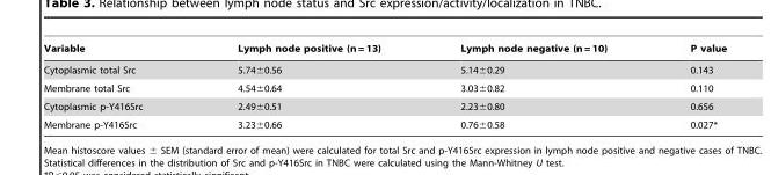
<table><thead><tr><td>Variable</td><td>Lymph node positive (n = 13)</td><td>Lymph node negative (n = 10)</td><td>P value</td></tr></thead><tbody><tr><td>Cytoplasmic total Src</td><td>5.74±0.56</td><td>5.14±0.29</td><td>0.143</td></tr><tr><td>Membrane total Src</td><td>4.54±0.64</td><td>3.03±0.82</td><td>0.110</td></tr><tr><td>Cytoplasmic p-Y416Src</td><td>2.49±0.51</td><td>2.23±0.80</td><td>0.656</td></tr><tr><td>Membrane p-Y416Src</td><td>3.23±0.66</td><td>0.76±0.58</td><td>0.027*</td></tr></tbody></table>